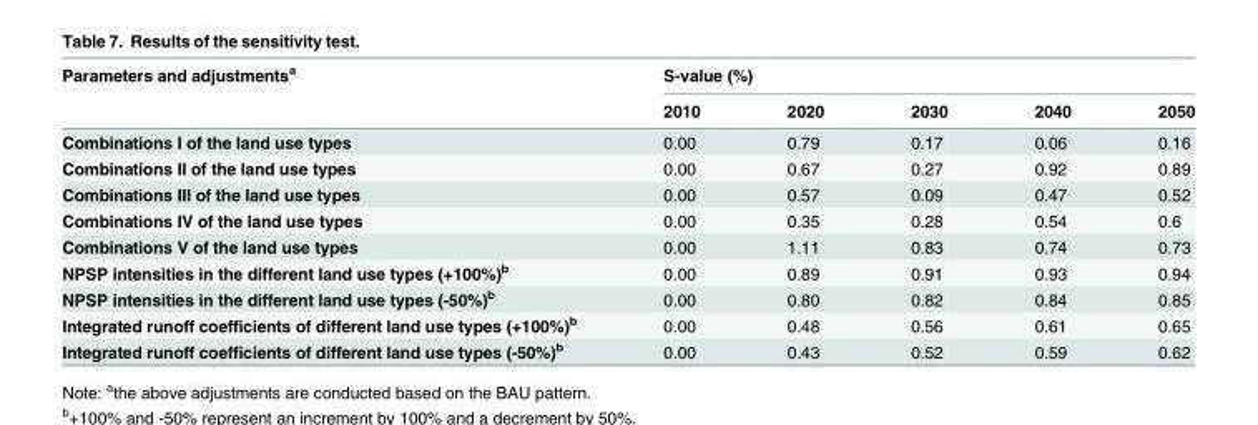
<table><thead><tr><td rowspan="2">Parameters and adjustments<sup>a</sup></td><td colspan="5">S-value (%)</td></tr><tr><td>2010</td><td>2020</td><td>2030</td><td>2040</td><td>2050</td></tr></thead><tbody><tr><td>Combinations I of the land use types</td><td>0.00</td><td>0.79</td><td>0.17</td><td>0.06</td><td>0.16</td></tr><tr><td>Combinations II of the land use types</td><td>0.00</td><td>0.67</td><td>0.27</td><td>0.92</td><td>0.89</td></tr><tr><td>Combinations III of the land use types</td><td>0.00</td><td>0.57</td><td>0.09</td><td>0.47</td><td>0.52</td></tr><tr><td>Combinations IV of the land use types</td><td>0.00</td><td>0.35</td><td>0.28</td><td>0.54</td><td>0.6</td></tr><tr><td>Combinations V of the land use types</td><td>0.00</td><td>1.11</td><td>0.83</td><td>0.74</td><td>0.73</td></tr><tr><td>NPSP intensities in the different land use types (+100%)<sup>b</sup></td><td>0.00</td><td>0.89</td><td>0.91</td><td>0.93</td><td>0.94</td></tr><tr><td>NPSP intensities in the different land use types (-50%)<sup>b</sup></td><td>0.00</td><td>0.80</td><td>0.82</td><td>0.84</td><td>0.85</td></tr><tr><td>Integrated runoff coefficients of different land use types (+100%)<sup>b</sup></td><td>0.00</td><td>0.48</td><td>0.56</td><td>0.61</td><td>0.65</td></tr><tr><td>Integrated runoff coefficients of different land use types (-50%)<sup>b</sup></td><td>0.00</td><td>0.43</td><td>0.52</td><td>0.59</td><td>0.62</td></tr></tbody></table>